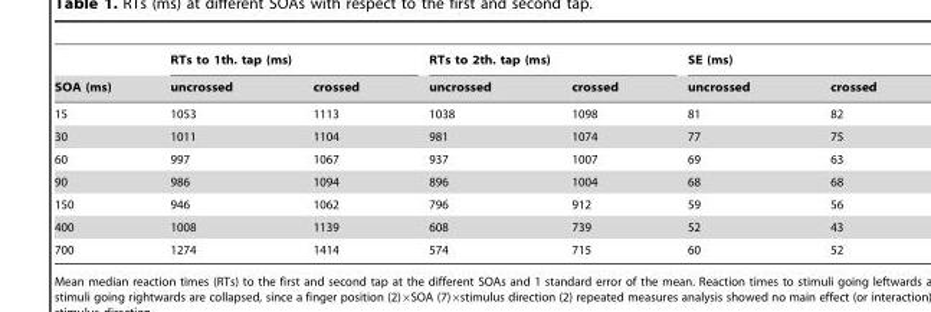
<table><thead><tr><td rowspan="2">SOA (ms)</td><td colspan="2">RTs to 1th. tap (ms)</td><td colspan="2">RTs to 2th. tap (ms)</td><td colspan="2">SE (ms)</td></tr><tr><td>uncrossed</td><td>crossed</td><td>uncrossed</td><td>crossed</td><td>uncrossed</td><td>crossed</td></tr></thead><tbody><tr><td>15</td><td>1053</td><td>1113</td><td>1038</td><td>1098</td><td>81</td><td>82</td></tr><tr><td>30</td><td>1011</td><td>1104</td><td>981</td><td>1074</td><td>77</td><td>75</td></tr><tr><td>60</td><td>997</td><td>1067</td><td>937</td><td>1007</td><td>69</td><td>63</td></tr><tr><td>90</td><td>986</td><td>1094</td><td>896</td><td>1004</td><td>68</td><td>68</td></tr><tr><td>150</td><td>946</td><td>1062</td><td>796</td><td>912</td><td>59</td><td>56</td></tr><tr><td>400</td><td>1008</td><td>1139</td><td>608</td><td>739</td><td>52</td><td>43</td></tr><tr><td>700</td><td>1274</td><td>1414</td><td>574</td><td>715</td><td>60</td><td>52</td></tr></tbody></table>